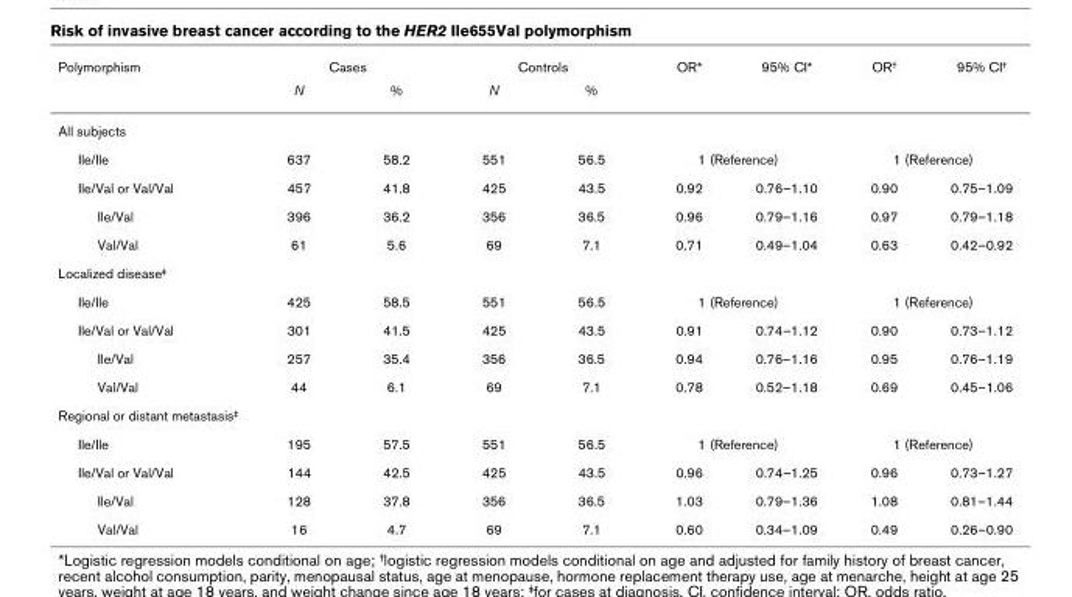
<table><thead><tr><td rowspan="2">Polymorphism</td><td colspan="2">Cases</td><td colspan="2">Controls</td><td rowspan="2">OR*</td><td rowspan="2">95% CI*</td><td rowspan="2">OR†</td><td rowspan="2">95% CI†</td></tr><tr><td>N</td><td>%</td><td>N</td><td>%</td></tr></thead><tbody><tr><td colspan="9">All subjects</td></tr><tr><td>Ile/Ile</td><td>637</td><td>58.2</td><td>551</td><td>56.5</td><td colspan="2">1 (Reference)</td><td colspan="2">1 (Reference)</td></tr><tr><td>Ile/Val or Val/Val</td><td>457</td><td>41.8</td><td>425</td><td>43.5</td><td>0.92</td><td>0.76–1.10</td><td>0.90</td><td>0.75–1.09</td></tr><tr><td>Ile/Val</td><td>396</td><td>36.2</td><td>356</td><td>36.5</td><td>0.96</td><td>0.79–1.16</td><td>0.97</td><td>0.79–1.18</td></tr><tr><td>Val/Val</td><td>61</td><td>5.6</td><td>69</td><td>7.1</td><td>0.71</td><td>0.49–1.04</td><td>0.63</td><td>0.42–0.92</td></tr><tr><td colspan="9">Localized disease‡</td></tr><tr><td>Ile/Ile</td><td>425</td><td>58.5</td><td>551</td><td>56.5</td><td colspan="2">1 (Reference)</td><td colspan="2">1 (Reference)</td></tr><tr><td>Ile/Val or Val/Val</td><td>301</td><td>41.5</td><td>425</td><td>43.5</td><td>0.91</td><td>0.74–1.12</td><td>0.90</td><td>0.73–1.12</td></tr><tr><td>Ile/Val</td><td>257</td><td>35.4</td><td>356</td><td>36.5</td><td>0.94</td><td>0.76–1.16</td><td>0.95</td><td>0.76–1.19</td></tr><tr><td>Val/Val</td><td>44</td><td>6.1</td><td>69</td><td>7.1</td><td>0.78</td><td>0.52–1.18</td><td>0.69</td><td>0.45–1.06</td></tr><tr><td colspan="9">Regional or distant metastasis‡</td></tr><tr><td>Ile/Ile</td><td>195</td><td>57.5</td><td>551</td><td>56.5</td><td colspan="2">1 (Reference)</td><td colspan="2">1 (Reference)</td></tr><tr><td>Ile/Val or Val/Val</td><td>144</td><td>42.5</td><td>425</td><td>43.5</td><td>0.96</td><td>0.74–1.25</td><td>0.96</td><td>0.73–1.27</td></tr><tr><td>Ile/Val</td><td>128</td><td>37.8</td><td>356</td><td>36.5</td><td>1.03</td><td>0.79–1.36</td><td>1.08</td><td>0.81–1.44</td></tr><tr><td>Val/Val</td><td>16</td><td>4.7</td><td>69</td><td>7.1</td><td>0.60</td><td>0.34–1.09</td><td>0.49</td><td>0.26–0.90</td></tr></tbody></table>